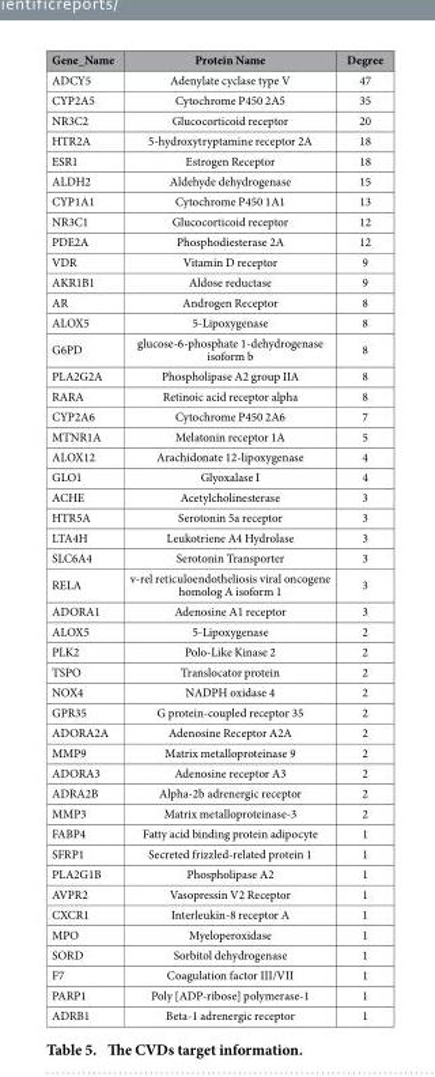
<table><thead><tr><td>Gene_Name</td><td>Protein Name</td><td>Degree</td></tr></thead><tbody><tr><td>ADCY5</td><td>Adenylate cyclase type V</td><td>47</td></tr><tr><td>CYP2A5</td><td>Cytochrome P450 2A5</td><td>35</td></tr><tr><td>NR3C2</td><td>Glucocorticoid receptor</td><td>20</td></tr><tr><td>HTR2A</td><td>5-hydroxytryptamine receptor 2A</td><td>18</td></tr><tr><td>ESR1</td><td>Estrogen Receptor</td><td>18</td></tr><tr><td>ALDH2</td><td>Aldehyde dehydrogenase</td><td>15</td></tr><tr><td>CYP1A1</td><td>Cytochrome P450 1A1</td><td>13</td></tr><tr><td>NR3C1</td><td>Glucocorticoid receptor</td><td>12</td></tr><tr><td>PDE2A</td><td>Phosphodiesterase 2A</td><td>12</td></tr><tr><td>VDR</td><td>Vitamin D receptor</td><td>9</td></tr><tr><td>AKR1B1</td><td>Aldose reductase</td><td>9</td></tr><tr><td>AR</td><td>Androgen Receptor</td><td>8</td></tr><tr><td>ALOX5</td><td>5-Lipoxygenase</td><td>8</td></tr><tr><td>G6PD</td><td>glucose-6-phosphate 1-dehydrogenase isoform b</td><td>8</td></tr><tr><td>PLA2G2A</td><td>Phospholipase A2 group IIA</td><td>8</td></tr><tr><td>RARA</td><td>Retinoic acid receptor alpha</td><td>8</td></tr><tr><td>CYP2A6</td><td>Cytochrome P450 2A6</td><td>7</td></tr><tr><td>MTNR1A</td><td>Melatonin receptor 1A</td><td>5</td></tr><tr><td>ALOX12</td><td>Arachidonate 12-lipoxygenase</td><td>4</td></tr><tr><td>GLO1</td><td>Glyoxalase I</td><td>4</td></tr><tr><td>ACHE</td><td>Acetylcholinesterase</td><td>3</td></tr><tr><td>HTR5A</td><td>Serotonin 5a receptor</td><td>3</td></tr><tr><td>LTA4H</td><td>Leukotriene A4 Hydrolase</td><td>3</td></tr><tr><td>SLC6A4</td><td>Serotonin Transporter</td><td>3</td></tr><tr><td>RELA</td><td>v-rel reticuloendotheliosis viral oncogene homolog A isoform 1</td><td>3</td></tr><tr><td>ADORA1</td><td>Adenosine A1 receptor</td><td>3</td></tr><tr><td>ALOX5</td><td>5-Lipoxygenase</td><td>2</td></tr><tr><td>PLK2</td><td>Polo-Like Kinase 2</td><td>2</td></tr><tr><td>TSPO</td><td>Translocator protein</td><td>2</td></tr><tr><td>NOX4</td><td>NADPH oxidase 4</td><td>2</td></tr><tr><td>GPR35</td><td>G protein-coupled receptor 35</td><td>2</td></tr><tr><td>ADORA2A</td><td>Adenosine Receptor A2A</td><td>2</td></tr><tr><td>MMP9</td><td>Matrix metalloproteinase 9</td><td>2</td></tr><tr><td>ADORA3</td><td>Adenosine receptor A3</td><td>2</td></tr><tr><td>ADRA2B</td><td>Alpha-2b adrenergic receptor</td><td>2</td></tr><tr><td>MMP3</td><td>Matrix metalloproteinase-3</td><td>2</td></tr><tr><td>FABP4</td><td>Fatty acid binding protein adipocyte</td><td>1</td></tr><tr><td>SFRP1</td><td>Secreted frizzled-related protein 1</td><td>1</td></tr><tr><td>PLA2G1B</td><td>Phospholipase A2</td><td>1</td></tr><tr><td>AVPR2</td><td>Vasopressin V2 Receptor</td><td>1</td></tr><tr><td>CXCR1</td><td>Interleukin-8 receptor A</td><td>1</td></tr><tr><td>MPO</td><td>Myeloperoxidase</td><td>1</td></tr><tr><td>SORD</td><td>Sorbitol dehydrogenase</td><td>1</td></tr><tr><td>F7</td><td>Coagulation factor III/VII</td><td>1</td></tr><tr><td>PARP1</td><td>Poly [ADP-ribose] polymerase-1</td><td>1</td></tr><tr><td>ADRB1</td><td>Beta-1 adrenergic receptor</td><td>1</td></tr></tbody></table>